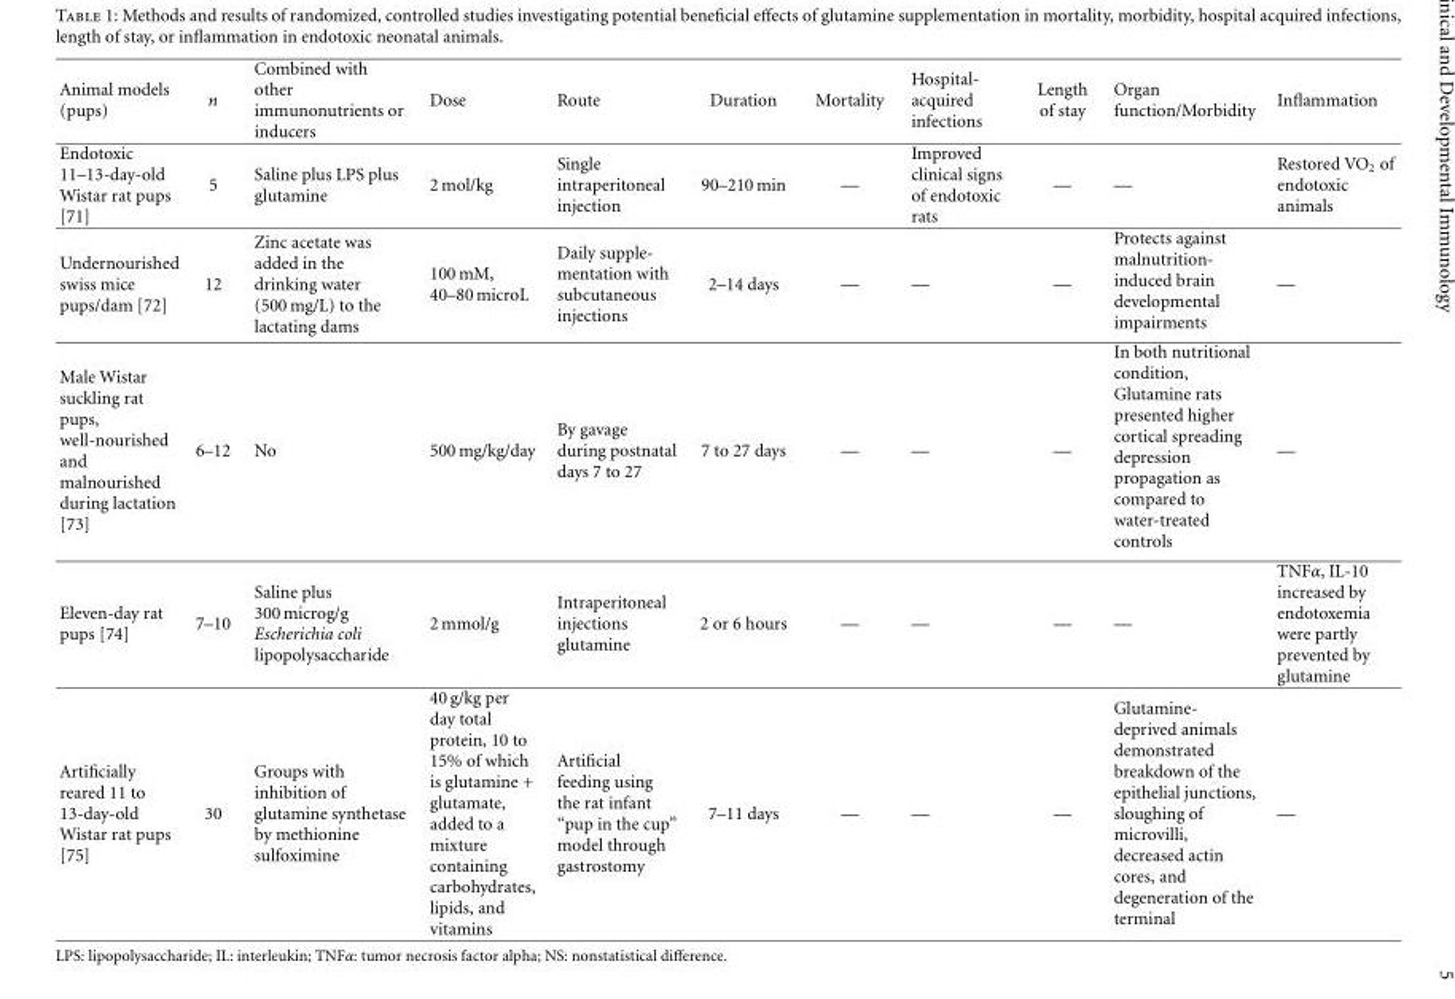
<table><thead><tr><td>Animal models (pups)</td><td>n</td><td>Combined with other immunonutrients or inducers</td><td>Dose</td><td>Route</td><td>Duration</td><td>Mortality</td><td>Hospital- acquired infections</td><td>Length of stay</td><td>Organ function/Morbidity</td><td>Inflammation</td></tr></thead><tbody><tr><td>Endotoxic 11–13-day-old Wistar rat pups [71]</td><td>5</td><td>Saline plus LPS plus glutamine</td><td>2 mol/kg</td><td>Single intraperitoneal injection</td><td>90–210 min</td><td>—</td><td>Improved clinical signs of endotoxic rats</td><td>—</td><td>—</td><td>Restored VO<sub>2</sub> of endotoxic animals</td></tr><tr><td>Undernourished swiss mice pups/dam [72]</td><td>12</td><td>Zinc acetate was added in the drinking water (500 mg/L) to the lactating dams</td><td>100 mM, 40–80 microL</td><td>Daily supple- mentation with subcutaneous injections</td><td>2–14 days</td><td>—</td><td>—</td><td>—</td><td>Protects against malnutrition- induced brain developmental impairments</td><td>—</td></tr><tr><td>Male Wistar suckling rat pups, well-nourished and malnourished during lactation [73]</td><td>6–12</td><td>No</td><td>500 mg/kg/day</td><td>By gavage during postnatal days 7 to 27</td><td>7 to 27 days</td><td>—</td><td>—</td><td>—</td><td>In both nutritional condition, Glutamine rats presented higher cortical spreading depression propagation as compared to water-treated controls</td><td>—</td></tr><tr><td>Eleven-day rat pups [74]</td><td>7–10</td><td>Saline plus 300 microg/g Escherichia coli lipopolysaccharide</td><td>2 mmol/g</td><td>Intraperitoneal injections glutamine</td><td>2 or 6 hours</td><td>—</td><td>—</td><td>—</td><td>—</td><td>TNFα, IL-10 increased by endotoxemia were partly prevented by glutamine</td></tr><tr><td>Artificially reared 11 to 13-day-old Wistar rat pups [75]</td><td>30</td><td>Groups with inhibition of glutamine synthetase by methionine sulfoximine</td><td>40 g/kg per day total protein, 10 to 15% of which is glutamine + glutamate, added to a mixture containing carbohydrates, lipids, and vitamins</td><td>Artificial feeding using the rat infant “pup in the cup” model through gastrostomy</td><td>7–11 days</td><td>—</td><td>—</td><td>—</td><td>Glutamine- deprived animals demonstrated breakdown of the epithelial junctions, sloughing of microvilli, decreased actin cores, and degeneration of the terminal</td><td>—</td></tr></tbody></table>